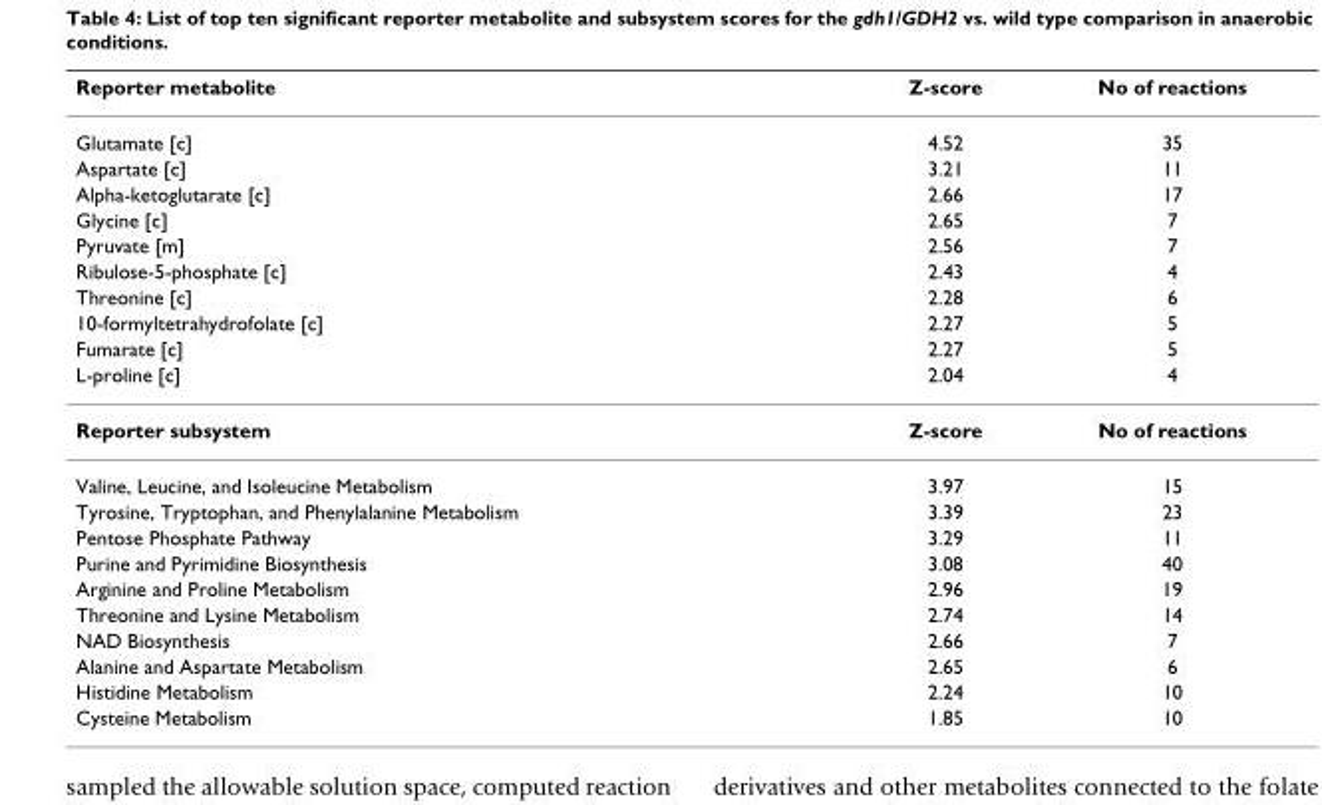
<table><thead><tr><td>Reporter metabolite</td><td>Z-score</td><td>No of reactions</td></tr></thead><tbody><tr><td>Glutamate [c]</td><td>4.52</td><td>35</td></tr><tr><td>Aspartate [c]</td><td>3.21</td><td>11</td></tr><tr><td>Alpha-ketoglutarate [c]</td><td>2.66</td><td>17</td></tr><tr><td>Glycine [c]</td><td>2.65</td><td>7</td></tr><tr><td>Pyruvate [m]</td><td>2.56</td><td>7</td></tr><tr><td>Ribulose-5-phosphate [c]</td><td>2.43</td><td>4</td></tr><tr><td>Threonine [c]</td><td>2.28</td><td>6</td></tr><tr><td>10-formyltetrahydrofolate [c]</td><td>2.27</td><td>5</td></tr><tr><td>Fumarate [c]</td><td>2.27</td><td>5</td></tr><tr><td>L-proline [c]</td><td>2.04</td><td>4</td></tr><tr><td>Reporter subsystem</td><td>Z-score</td><td>No of reactions</td></tr><tr><td>Valine, Leucine, and Isoleucine Metabolism</td><td>3.97</td><td>15</td></tr><tr><td>Tyrosine, Tryptophan, and Phenylalanine Metabolism</td><td>3.39</td><td>23</td></tr><tr><td>Pentose Phosphate Pathway</td><td>3.29</td><td>11</td></tr><tr><td>Purine and Pyrimidine Biosynthesis</td><td>3.08</td><td>40</td></tr><tr><td>Arginine and Proline Metabolism</td><td>2.96</td><td>19</td></tr><tr><td>Threonine and Lysine Metabolism</td><td>2.74</td><td>14</td></tr><tr><td>NAD Biosynthesis</td><td>2.66</td><td>7</td></tr><tr><td>Alanine and Aspartate Metabolism</td><td>2.65</td><td>6</td></tr><tr><td>Histidine Metabolism</td><td>2.24</td><td>10</td></tr><tr><td>Cysteine Metabolism</td><td>1.85</td><td>10</td></tr></tbody></table>